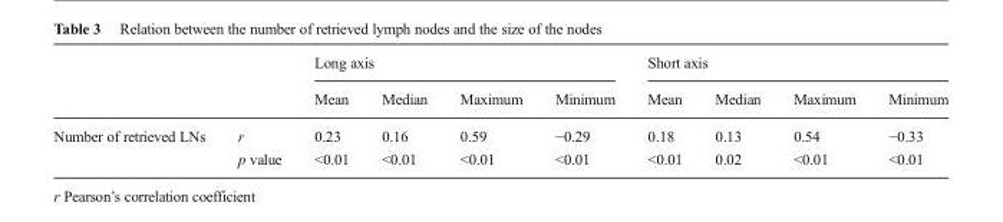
<table><thead><tr><td rowspan="2"></td><td rowspan="2"></td><td colspan="4">Long axis</td><td colspan="4">Short axis</td></tr><tr><td>Mean</td><td>Median</td><td>Maximum</td><td>Minimum</td><td>Mean</td><td>Median</td><td>Maximum</td><td>Minimum</td></tr></thead><tbody><tr><td rowspan="2">Number of retrieved LNs</td><td>r</td><td>0.23</td><td>0.16</td><td>0.59</td><td>−0.29</td><td>0.18</td><td>0.13</td><td>0.54</td><td>−0.33</td></tr><tr><td>p value</td><td>&lt;0.01</td><td>&lt;0.01</td><td>&lt;0.01</td><td>&lt;0.01</td><td>&lt;0.01</td><td>0.02</td><td>&lt;0.01</td><td>&lt;0.01</td></tr></tbody></table>